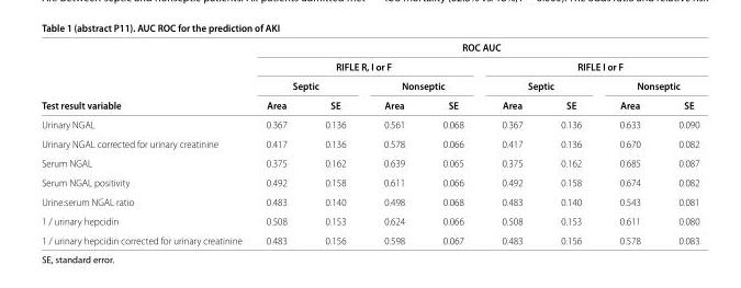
<table><thead><tr><td rowspan="4">Test result variable</td><td colspan="8">ROC AUC</td></tr><tr><td colspan="4">RIFLE R, I or F</td><td colspan="4">RIFLE I or F</td></tr><tr><td colspan="2">Septic</td><td colspan="2">Nonseptic</td><td colspan="2">Septic</td><td colspan="2">Nonseptic</td></tr><tr><td>Area</td><td>SE</td><td>Area</td><td>SE</td><td>Area</td><td>SE</td><td>Area</td><td>SE</td></tr></thead><tbody><tr><td>Urinary NGAL</td><td>0.367</td><td>0.136</td><td>0.561</td><td>0.068</td><td>0.367</td><td>0.136</td><td>0.633</td><td>0.090</td></tr><tr><td>Urinary NGAL corrected for urinary creatinine</td><td>0.417</td><td>0.136</td><td>0.578</td><td>0.066</td><td>0.417</td><td>0.136</td><td>0.670</td><td>0.082</td></tr><tr><td>Serum NGAL</td><td>0.375</td><td>0.162</td><td>0.639</td><td>0.065</td><td>0.375</td><td>0.162</td><td>0.685</td><td>0.087</td></tr><tr><td>Serum NGAL positivity</td><td>0.492</td><td>0.158</td><td>0.611</td><td>0.066</td><td>0.492</td><td>0.158</td><td>0.674</td><td>0.082</td></tr><tr><td>Urine:serum NGAL ratio</td><td>0.483</td><td>0.140</td><td>0.498</td><td>0.068</td><td>0.483</td><td>0.140</td><td>0.543</td><td>0.081</td></tr><tr><td>1 / urinary hepcidin</td><td>0.508</td><td>0.153</td><td>0.624</td><td>0.066</td><td>0.508</td><td>0.153</td><td>0.611</td><td>0.080</td></tr><tr><td>1 / urinary hepcidin corrected for urinary creatinine</td><td>0.483</td><td>0.156</td><td>0.598</td><td>0.067</td><td>0.483</td><td>0.156</td><td>0.578</td><td>0.083</td></tr></tbody></table>